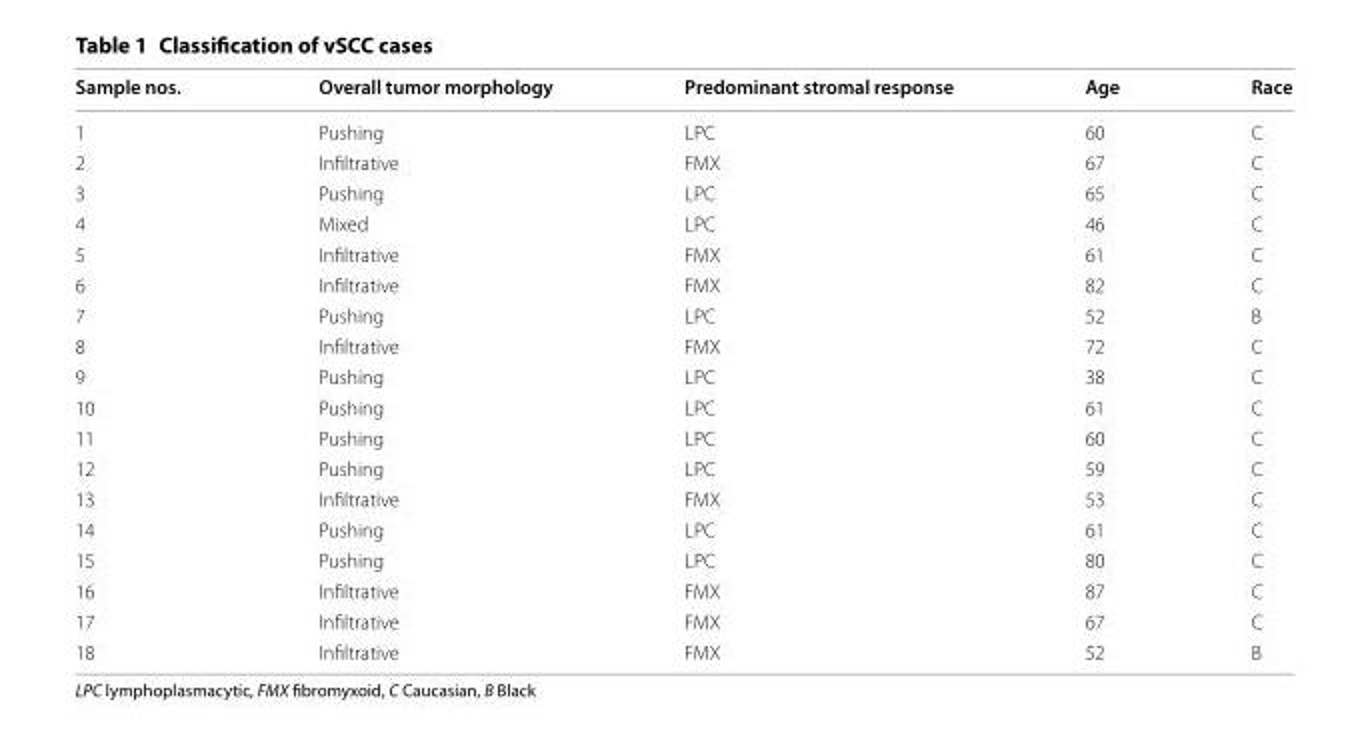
<table><thead><tr><td>Sample nos.</td><td>Overall tumor morphology</td><td>Predominant stromal response</td><td>Age</td><td>Race</td></tr></thead><tbody><tr><td>1</td><td>Pushing</td><td>LPC</td><td>60</td><td>C</td></tr><tr><td>2</td><td>Infiltrative</td><td>FMX</td><td>67</td><td>C</td></tr><tr><td>3</td><td>Pushing</td><td>LPC</td><td>65</td><td>C</td></tr><tr><td>4</td><td>Mixed</td><td>LPC</td><td>46</td><td>C</td></tr><tr><td>5</td><td>Infiltrative</td><td>FMX</td><td>61</td><td>C</td></tr><tr><td>6</td><td>Infiltrative</td><td>FMX</td><td>82</td><td>C</td></tr><tr><td>7</td><td>Pushing</td><td>LPC</td><td>52</td><td>B</td></tr><tr><td>8</td><td>Infiltrative</td><td>FMX</td><td>72</td><td>C</td></tr><tr><td>9</td><td>Pushing</td><td>LPC</td><td>38</td><td>C</td></tr><tr><td>10</td><td>Pushing</td><td>LPC</td><td>61</td><td>C</td></tr><tr><td>11</td><td>Pushing</td><td>LPC</td><td>60</td><td>C</td></tr><tr><td>12</td><td>Pushing</td><td>LPC</td><td>59</td><td>C</td></tr><tr><td>13</td><td>Infiltrative</td><td>FMX</td><td>53</td><td>C</td></tr><tr><td>14</td><td>Pushing</td><td>LPC</td><td>61</td><td>C</td></tr><tr><td>15</td><td>Pushing</td><td>LPC</td><td>80</td><td>C</td></tr><tr><td>16</td><td>Infiltrative</td><td>FMX</td><td>87</td><td>C</td></tr><tr><td>17</td><td>Infiltrative</td><td>FMX</td><td>67</td><td>C</td></tr><tr><td>18</td><td>Infiltrative</td><td>FMX</td><td>52</td><td>B</td></tr></tbody></table>